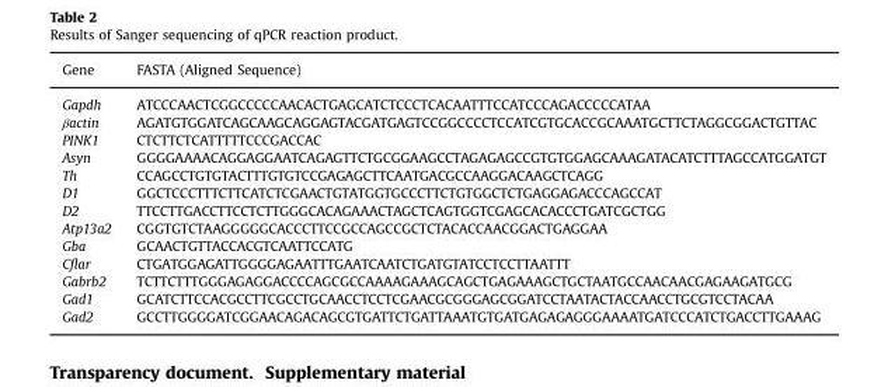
<table><thead><tr><td>Gene</td><td>FASTA (Aligned Sequence)</td></tr></thead><tbody><tr><td>Gapdh</td><td>ATCCCAACTCGGCCCCCAACACTGAGCATCTCCCTCACAATTTCCATCCCAGACCCCCATAA</td></tr><tr><td>βactin</td><td>AGATGTGGATCAGCAAGCAGGAGTACGATGAGTCCGGCCCCTCCATCGTGCACCGCAAATGCTTCTAGGCGGACTGTTAC</td></tr><tr><td>PINK1</td><td>CTCTTCTCATTTTTCCCGACCAC</td></tr><tr><td>Asyn</td><td>GGGGAAAACAGGAGGAATCAGAGTTCTGCGGAAGCCTAGAGAGCCGTGTGGAGCAAAGATACATCTTTAGCCATGGATGT</td></tr><tr><td>Th</td><td>CCAGCCTGTGTACTTTGTGTCCGAGAGCTTCAATGACGCCAAGGACAAGCTCAGG</td></tr><tr><td>D1</td><td>GGCTCCCTTTCTTCATCTCGAACTGTATGGTGCCCTTCTGTGGCTCTGAGGAGACCCAGCCAT</td></tr><tr><td>D2</td><td>TTCCTTGACCTTCCTCTTGGGCACAGAAACTAGCTCAGTGGTCGAGCACACCCTGATCGCTGG</td></tr><tr><td>Atp13a2</td><td>CGGTGTCTAAGGGGGCACCCTTCCGCCAGCCGCTCTACACCAACGGACTGAGGAA</td></tr><tr><td>Gba</td><td>GCAACTGTTACCACGTCAATTCCATG</td></tr><tr><td>Cflar</td><td>CTGATGGAGATTGGGGAGAATTTGAATCAATCTGATGTATCCTCCTTAATTT</td></tr><tr><td>Gabrb2</td><td>TCTTCTTTGGGAGAGGACCCCAGCGCCAAAAGAAAGCAGCTGAGAAAGCTGCTAATGCCAACAACGAGAAGATGCG</td></tr><tr><td>Gad1</td><td>GCATCTTCCACGCCTTCGCCTGCAACCTCCTCGAACGCGGGAGCGGATCCTAATACTACCAACCTGCGTCCTACAA</td></tr><tr><td>Gad2</td><td>GCCTTGGGGATCGGAACAGACAGCGTGATTCTGATTAAATGTGATGAGAGAGGGAAAATGATCCCATCTGACCTTGAAAG</td></tr></tbody></table>